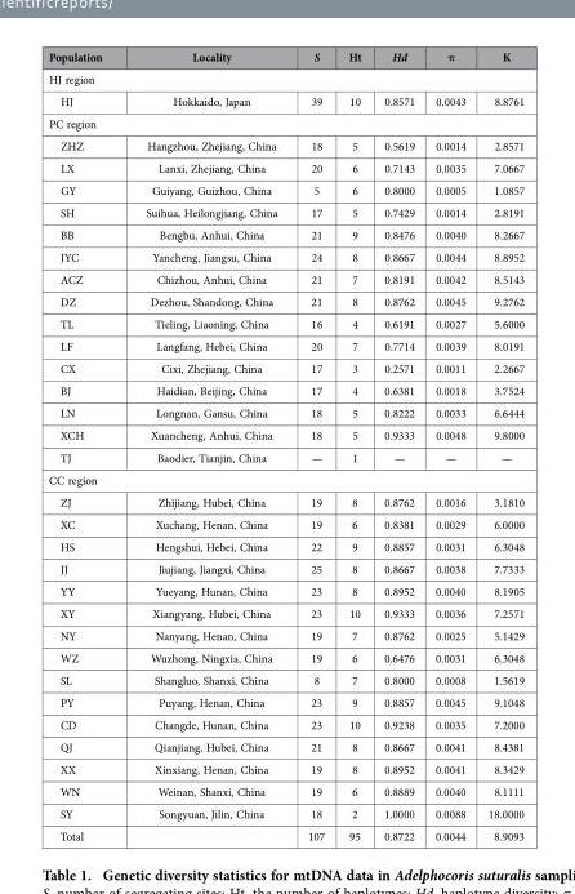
<table><thead><tr><td>Population</td><td>Locality</td><td>S</td><td>Ht</td><td>Hd</td><td>π</td><td>K</td></tr></thead><tbody><tr><td colspan="7">HJ region</td></tr><tr><td>HJ</td><td>Hokkaido, Japan</td><td>39</td><td>10</td><td>0.8571</td><td>0.0043</td><td>8.8761</td></tr><tr><td colspan="7">PC region</td></tr><tr><td>ZHZ</td><td>Hangzhou, Zhejiang, China</td><td>18</td><td>5</td><td>0.5619</td><td>0.0014</td><td>2.8571</td></tr><tr><td>LX</td><td>Lanxi, Zhejiang, China</td><td>20</td><td>6</td><td>0.7143</td><td>0.0035</td><td>7.0667</td></tr><tr><td>GY</td><td>Guiyang, Guizhou, China</td><td>5</td><td>6</td><td>0.8000</td><td>0.0005</td><td>1.0857</td></tr><tr><td>SH</td><td>Suihua, Heilongjiang, China</td><td>17</td><td>5</td><td>0.7429</td><td>0.0014</td><td>2.8191</td></tr><tr><td>BB</td><td>Bengbu, Anhui, China</td><td>21</td><td>9</td><td>0.8476</td><td>0.0040</td><td>8.2667</td></tr><tr><td>JYC</td><td>Yancheng, Jiangsu, China</td><td>24</td><td>8</td><td>0.8667</td><td>0.0044</td><td>8.8952</td></tr><tr><td>ACZ</td><td>Chizhou, Anhui, China</td><td>21</td><td>7</td><td>0.8191</td><td>0.0042</td><td>8.5143</td></tr><tr><td>DZ</td><td>Dezhou, Shandong, China</td><td>21</td><td>8</td><td>0.8762</td><td>0.0045</td><td>9.2762</td></tr><tr><td>TL</td><td>Tieling, Liaoning, China</td><td>16</td><td>4</td><td>0.6191</td><td>0.0027</td><td>5.6000</td></tr><tr><td>LF</td><td>Langfang, Hebei, China</td><td>20</td><td>7</td><td>0.7714</td><td>0.0039</td><td>8.0191</td></tr><tr><td>CX</td><td>Cixi, Zhejiang, China</td><td>17</td><td>3</td><td>0.2571</td><td>0.0011</td><td>2.2667</td></tr><tr><td>BJ</td><td>Haidian, Beijing, China</td><td>17</td><td>4</td><td>0.6381</td><td>0.0018</td><td>3.7524</td></tr><tr><td>LN</td><td>Longnan, Gansu, China</td><td>18</td><td>5</td><td>0.8222</td><td>0.0033</td><td>6.6444</td></tr><tr><td>XCH</td><td>Xuancheng, Anhui, China</td><td>18</td><td>5</td><td>0.9333</td><td>0.0048</td><td>9.8000</td></tr><tr><td>TJ</td><td>Baodier, Tianjin, China</td><td>—</td><td>1</td><td>—</td><td>—</td><td>—</td></tr><tr><td colspan="7">CC region</td></tr><tr><td>ZJ</td><td>Zhijiang, Hubei, China</td><td>19</td><td>8</td><td>0.8762</td><td>0.0016</td><td>3.1810</td></tr><tr><td>XC</td><td>Xuchang, Henan, China</td><td>19</td><td>6</td><td>0.8381</td><td>0.0029</td><td>6.0000</td></tr><tr><td>HS</td><td>Hengshui, Hebei, China</td><td>22</td><td>9</td><td>0.8857</td><td>0.0031</td><td>6.3048</td></tr><tr><td>JJ</td><td>Jiujiang, Jiangxi, China</td><td>25</td><td>8</td><td>0.8667</td><td>0.0038</td><td>7.7333</td></tr><tr><td>YY</td><td>Yueyang, Hunan, China</td><td>23</td><td>8</td><td>0.8952</td><td>0.0040</td><td>8.1905</td></tr><tr><td>XY</td><td>Xiangyang, Hubei, China</td><td>23</td><td>10</td><td>0.9333</td><td>0.0036</td><td>7.2571</td></tr><tr><td>NY</td><td>Nanyang, Henan, China</td><td>19</td><td>7</td><td>0.8762</td><td>0.0025</td><td>5.1429</td></tr><tr><td>WZ</td><td>Wuzhong, Ningxia, China</td><td>19</td><td>6</td><td>0.6476</td><td>0.0031</td><td>6.3048</td></tr><tr><td>SL</td><td>Shangluo, Shanxi, China</td><td>8</td><td>7</td><td>0.8000</td><td>0.0008</td><td>1.5619</td></tr><tr><td>PY</td><td>Puyang, Henan, China</td><td>23</td><td>9</td><td>0.8857</td><td>0.0045</td><td>9.1048</td></tr><tr><td>CD</td><td>Changde, Hunan, China</td><td>23</td><td>10</td><td>0.9238</td><td>0.0035</td><td>7.2000</td></tr><tr><td>QJ</td><td>Qianjiang, Hubei, China</td><td>21</td><td>8</td><td>0.8667</td><td>0.0041</td><td>8.4381</td></tr><tr><td>XX</td><td>Xinxiang, Henan, China</td><td>19</td><td>8</td><td>0.8952</td><td>0.0041</td><td>8.3429</td></tr><tr><td>WN</td><td>Weinan, Shanxi, China</td><td>19</td><td>6</td><td>0.8889</td><td>0.0040</td><td>8.1111</td></tr><tr><td>SY</td><td>Songyuan, Jilin, China</td><td>18</td><td>2</td><td>1.0000</td><td>0.0088</td><td>18.0000</td></tr><tr><td>Total</td><td></td><td>107</td><td>95</td><td>0.8722</td><td>0.0044</td><td>8.9093</td></tr></tbody></table>